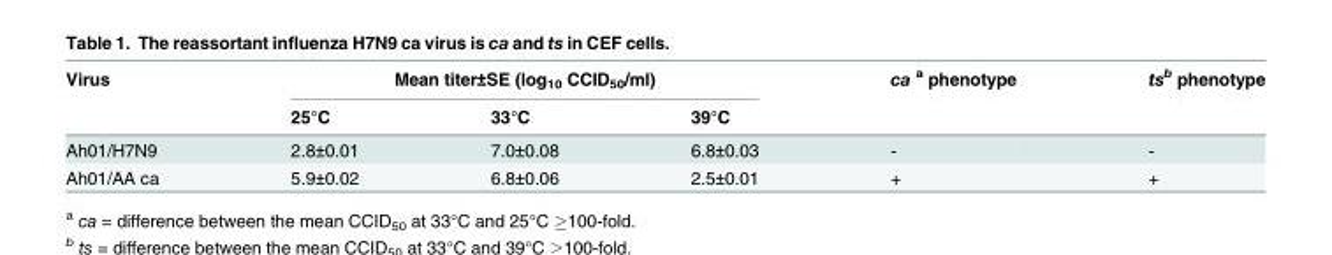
<table><thead><tr><td rowspan="2">Virus</td><td colspan="3">Mean titer±SE (log<sub>10</sub> CCID<sub>50</sub>/ml)</td><td rowspan="2">ca <sup>a</sup> phenotype</td><td rowspan="2">ts<sup>b</sup> phenotype</td></tr><tr><td>25°C</td><td>33°C</td><td>39°C</td></tr></thead><tbody><tr><td>Ah01/H7N9</td><td>2.8±0.01</td><td>7.0±0.08</td><td>6.8±0.03</td><td>-</td><td>-</td></tr><tr><td>Ah01/AA ca</td><td>5.9±0.02</td><td>6.8±0.06</td><td>2.5±0.01</td><td>+</td><td>+</td></tr></tbody></table>